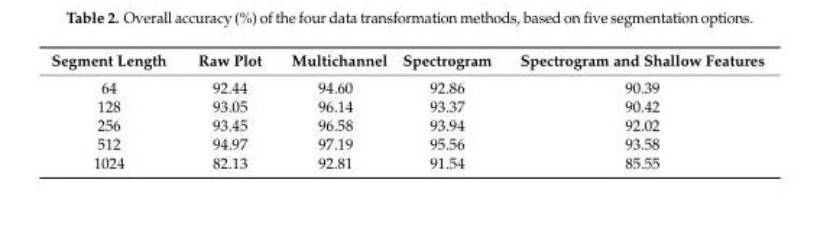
<table><thead><tr><td>Segment Length</td><td>Raw Plot</td><td>Multichannel</td><td>Spectrogram</td><td>Spectrogram and Shallow Features</td></tr></thead><tbody><tr><td>64</td><td>92.44</td><td>94.60</td><td>92.86</td><td>90.39</td></tr><tr><td>128</td><td>93.05</td><td>96.14</td><td>93.37</td><td>90.42</td></tr><tr><td>256</td><td>93.45</td><td>96.58</td><td>93.94</td><td>92.02</td></tr><tr><td>512</td><td>94.97</td><td>97.19</td><td>95.56</td><td>93.58</td></tr><tr><td>1024</td><td>82.13</td><td>92.81</td><td>91.54</td><td>85.55</td></tr></tbody></table>